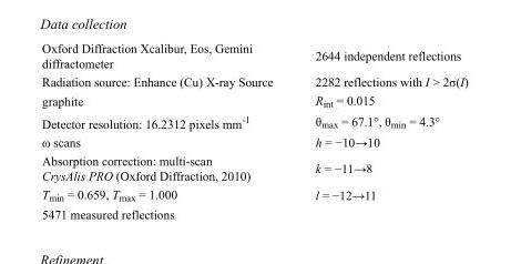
<table><tbody><tr><td>Oxford Diffraction Xcalibur, Eos, Gemini diffractometer</td><td>2644 independent reflections</td></tr><tr><td>Radiation source: Enhance (Cu) X-ray Source</td><td>2282 reflections with I &gt; 2σ(I)</td></tr><tr><td>graphite</td><td>R<sub>int</sub> = 0.015</td></tr><tr><td>Detector resolution: 16.2312 pixels mm<sup>-1</sup></td><td>θ<sub>max</sub> = 67.1°, θ<sub>min</sub> = 4.3°</td></tr><tr><td>ω scans</td><td>h = −10→10</td></tr><tr><td>Absorption correction: multi-scan CrysAlis PRO (Oxford Diffraction, 2010)</td><td>k = −11→8</td></tr><tr><td>T<sub>min</sub> = 0.659, T<sub>max</sub> = 1.000</td><td>l = −12→11</td></tr><tr><td>5471 measured reflections</td><td></td></tr></tbody></table>